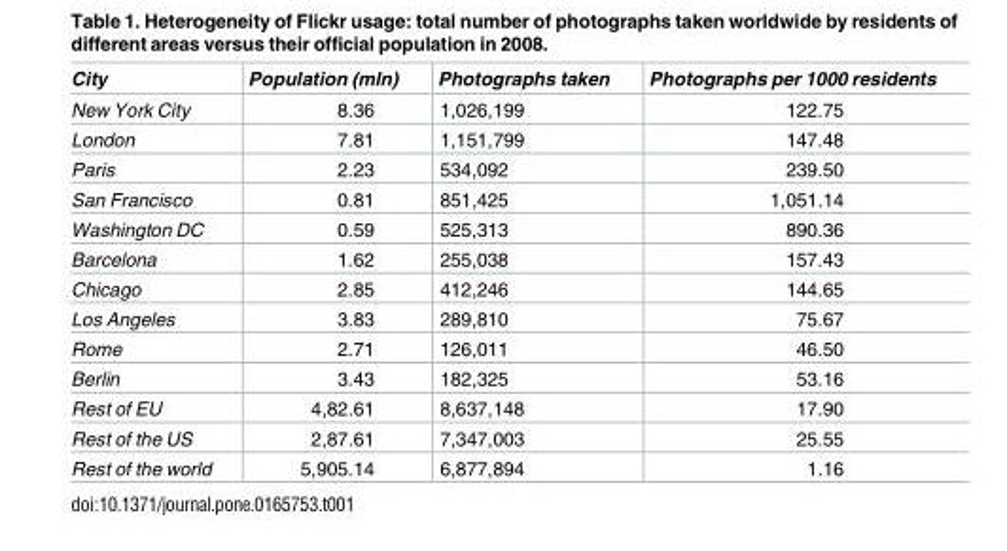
<table><thead><tr><td>City</td><td>Population (mln)</td><td>Photographs taken</td><td>Photographs per 1000 residents</td></tr></thead><tbody><tr><td>New York City</td><td>8.36</td><td>1,026,199</td><td>122.75</td></tr><tr><td>London</td><td>7.81</td><td>1,151,799</td><td>147.48</td></tr><tr><td>Paris</td><td>2.23</td><td>534,092</td><td>239.50</td></tr><tr><td>San Francisco</td><td>0.81</td><td>851,425</td><td>1,051.14</td></tr><tr><td>Washington DC</td><td>0.59</td><td>525,313</td><td>890.36</td></tr><tr><td>Barcelona</td><td>1.62</td><td>255,038</td><td>157.43</td></tr><tr><td>Chicago</td><td>2.85</td><td>412,246</td><td>144.65</td></tr><tr><td>Los Angeles</td><td>3.83</td><td>289,810</td><td>75.67</td></tr><tr><td>Rome</td><td>2.71</td><td>126,011</td><td>46.50</td></tr><tr><td>Berlin</td><td>3.43</td><td>182,325</td><td>53.16</td></tr><tr><td>Rest of EU</td><td>4,82.61</td><td>8,637,148</td><td>17.90</td></tr><tr><td>Rest of the US</td><td>2,87.61</td><td>7,347,003</td><td>25.55</td></tr><tr><td>Rest of the world</td><td>5,905.14</td><td>6,877,894</td><td>1.16</td></tr></tbody></table>